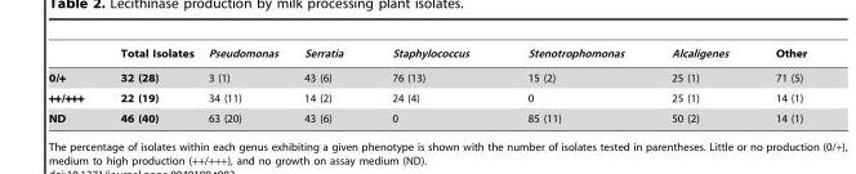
<table><thead><tr><td></td><td>Total Isolates</td><td>Pseudomonas</td><td>Serratia</td><td>Staphylococcus</td><td>Stenotrophomonas</td><td>Alcaligenes</td><td>Other</td></tr></thead><tbody><tr><td>0/+</td><td>32 (28)</td><td>3 (1)</td><td>43 (6)</td><td>76 (13)</td><td>15 (2)</td><td>25 (1)</td><td>71 (5)</td></tr><tr><td>++/+++</td><td>22 (19)</td><td>34 (11)</td><td>14 (2)</td><td>24 (4)</td><td>0</td><td>25 (1)</td><td>14 (1)</td></tr><tr><td>ND</td><td>46 (40)</td><td>63 (20)</td><td>43 (6)</td><td>0</td><td>85 (11)</td><td>50 (2)</td><td>14 (1)</td></tr></tbody></table>